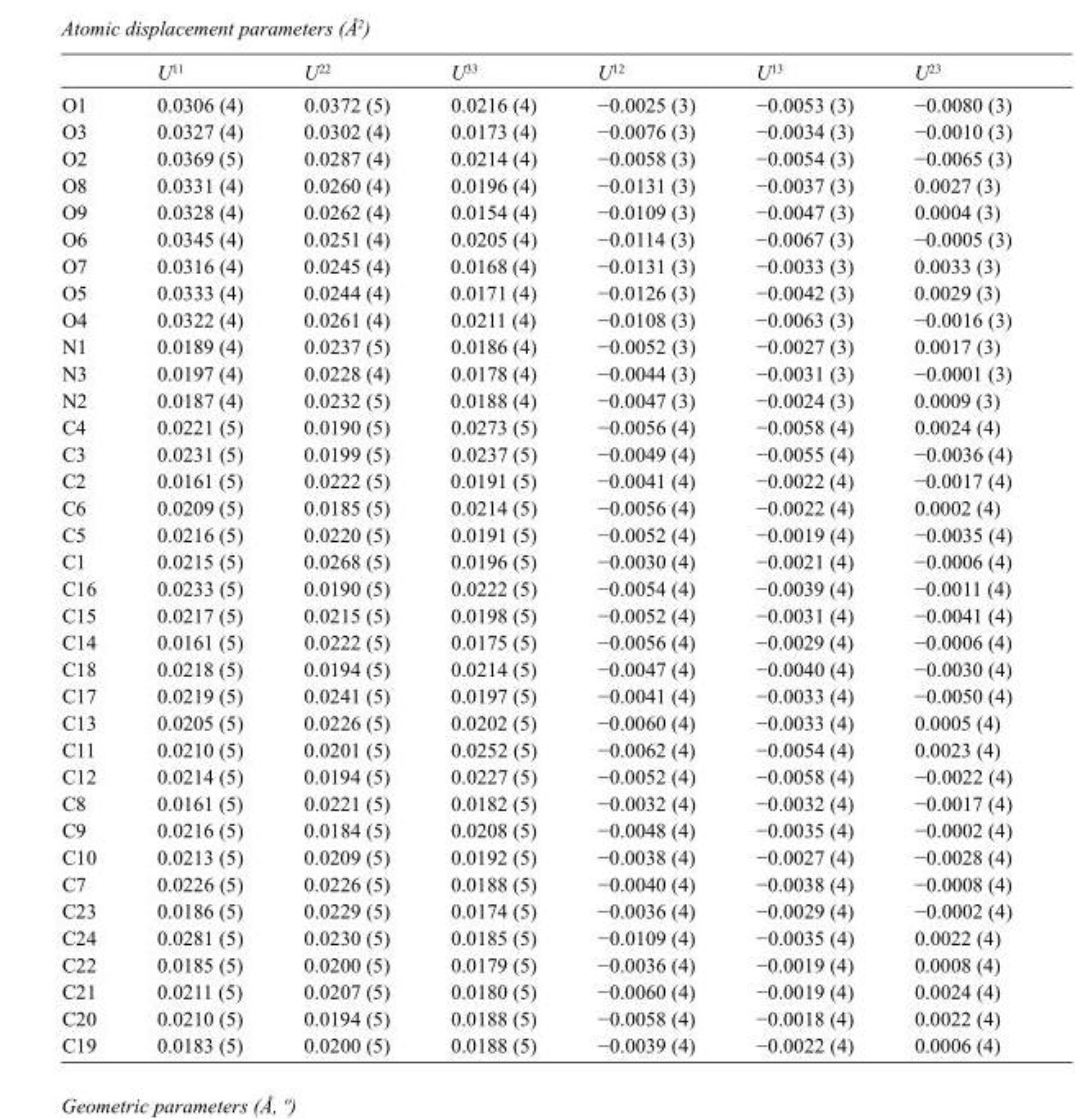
<table><thead><tr><td></td><td>U<sup>11</sup></td><td>U<sup>22</sup></td><td>U<sup>33</sup></td><td>U<sup>12</sup></td><td>U<sup>13</sup></td><td>U<sup>23</sup></td></tr></thead><tbody><tr><td>O1</td><td>0.0306 (4)</td><td>0.0372 (5)</td><td>0.0216 (4)</td><td>−0.0025 (3)</td><td>−0.0053 (3)</td><td>−0.0080 (3)</td></tr><tr><td>O3</td><td>0.0327 (4)</td><td>0.0302 (4)</td><td>0.0173 (4)</td><td>−0.0076 (3)</td><td>−0.0034 (3)</td><td>−0.0010 (3)</td></tr><tr><td>O2</td><td>0.0369 (5)</td><td>0.0287 (4)</td><td>0.0214 (4)</td><td>−0.0058 (3)</td><td>−0.0054 (3)</td><td>−0.0065 (3)</td></tr><tr><td>O8</td><td>0.0331 (4)</td><td>0.0260 (4)</td><td>0.0196 (4)</td><td>−0.0131 (3)</td><td>−0.0037 (3)</td><td>0.0027 (3)</td></tr><tr><td>O9</td><td>0.0328 (4)</td><td>0.0262 (4)</td><td>0.0154 (4)</td><td>−0.0109 (3)</td><td>−0.0047 (3)</td><td>0.0004 (3)</td></tr><tr><td>O6</td><td>0.0345 (4)</td><td>0.0251 (4)</td><td>0.0205 (4)</td><td>−0.0114 (3)</td><td>−0.0067 (3)</td><td>−0.0005 (3)</td></tr><tr><td>O7</td><td>0.0316 (4)</td><td>0.0245 (4)</td><td>0.0168 (4)</td><td>−0.0131 (3)</td><td>−0.0033 (3)</td><td>0.0033 (3)</td></tr><tr><td>O5</td><td>0.0333 (4)</td><td>0.0244 (4)</td><td>0.0171 (4)</td><td>−0.0126 (3)</td><td>−0.0042 (3)</td><td>0.0029 (3)</td></tr><tr><td>O4</td><td>0.0322 (4)</td><td>0.0261 (4)</td><td>0.0211 (4)</td><td>−0.0108 (3)</td><td>−0.0063 (3)</td><td>−0.0016 (3)</td></tr><tr><td>N1</td><td>0.0189 (4)</td><td>0.0237 (5)</td><td>0.0186 (4)</td><td>−0.0052 (3)</td><td>−0.0027 (3)</td><td>0.0017 (3)</td></tr><tr><td>N3</td><td>0.0197 (4)</td><td>0.0228 (4)</td><td>0.0178 (4)</td><td>−0.0044 (3)</td><td>−0.0031 (3)</td><td>−0.0001 (3)</td></tr><tr><td>N2</td><td>0.0187 (4)</td><td>0.0232 (5)</td><td>0.0188 (4)</td><td>−0.0047 (3)</td><td>−0.0024 (3)</td><td>0.0009 (3)</td></tr><tr><td>C4</td><td>0.0221 (5)</td><td>0.0190 (5)</td><td>0.0273 (5)</td><td>−0.0056 (4)</td><td>−0.0058 (4)</td><td>0.0024 (4)</td></tr><tr><td>C3</td><td>0.0231 (5)</td><td>0.0199 (5)</td><td>0.0237 (5)</td><td>−0.0049 (4)</td><td>−0.0055 (4)</td><td>−0.0036 (4)</td></tr><tr><td>C2</td><td>0.0161 (5)</td><td>0.0222 (5)</td><td>0.0191 (5)</td><td>−0.0041 (4)</td><td>−0.0022 (4)</td><td>−0.0017 (4)</td></tr><tr><td>C6</td><td>0.0209 (5)</td><td>0.0185 (5)</td><td>0.0214 (5)</td><td>−0.0056 (4)</td><td>−0.0022 (4)</td><td>0.0002 (4)</td></tr><tr><td>C5</td><td>0.0216 (5)</td><td>0.0220 (5)</td><td>0.0191 (5)</td><td>−0.0052 (4)</td><td>−0.0019 (4)</td><td>−0.0035 (4)</td></tr><tr><td>C1</td><td>0.0215 (5)</td><td>0.0268 (5)</td><td>0.0196 (5)</td><td>−0.0030 (4)</td><td>−0.0021 (4)</td><td>−0.0006 (4)</td></tr><tr><td>C16</td><td>0.0233 (5)</td><td>0.0190 (5)</td><td>0.0222 (5)</td><td>−0.0054 (4)</td><td>−0.0039 (4)</td><td>−0.0011 (4)</td></tr><tr><td>C15</td><td>0.0217 (5)</td><td>0.0215 (5)</td><td>0.0198 (5)</td><td>−0.0052 (4)</td><td>−0.0031 (4)</td><td>−0.0041 (4)</td></tr><tr><td>C14</td><td>0.0161 (5)</td><td>0.0222 (5)</td><td>0.0175 (5)</td><td>−0.0056 (4)</td><td>−0.0029 (4)</td><td>−0.0006 (4)</td></tr><tr><td>C18</td><td>0.0218 (5)</td><td>0.0194 (5)</td><td>0.0214 (5)</td><td>−0.0047 (4)</td><td>−0.0040 (4)</td><td>−0.0030 (4)</td></tr><tr><td>C17</td><td>0.0219 (5)</td><td>0.0241 (5)</td><td>0.0197 (5)</td><td>−0.0041 (4)</td><td>−0.0033 (4)</td><td>−0.0050 (4)</td></tr><tr><td>C13</td><td>0.0205 (5)</td><td>0.0226 (5)</td><td>0.0202 (5)</td><td>−0.0060 (4)</td><td>−0.0033 (4)</td><td>0.0005 (4)</td></tr><tr><td>C11</td><td>0.0210 (5)</td><td>0.0201 (5)</td><td>0.0252 (5)</td><td>−0.0062 (4)</td><td>−0.0054 (4)</td><td>0.0023 (4)</td></tr><tr><td>C12</td><td>0.0214 (5)</td><td>0.0194 (5)</td><td>0.0227 (5)</td><td>−0.0052 (4)</td><td>−0.0058 (4)</td><td>−0.0022 (4)</td></tr><tr><td>C8</td><td>0.0161 (5)</td><td>0.0221 (5)</td><td>0.0182 (5)</td><td>−0.0032 (4)</td><td>−0.0032 (4)</td><td>−0.0017 (4)</td></tr><tr><td>C9</td><td>0.0216 (5)</td><td>0.0184 (5)</td><td>0.0208 (5)</td><td>−0.0048 (4)</td><td>−0.0035 (4)</td><td>−0.0002 (4)</td></tr><tr><td>C10</td><td>0.0213 (5)</td><td>0.0209 (5)</td><td>0.0192 (5)</td><td>−0.0038 (4)</td><td>−0.0027 (4)</td><td>−0.0028 (4)</td></tr><tr><td>C7</td><td>0.0226 (5)</td><td>0.0226 (5)</td><td>0.0188 (5)</td><td>−0.0040 (4)</td><td>−0.0038 (4)</td><td>−0.0008 (4)</td></tr><tr><td>C23</td><td>0.0186 (5)</td><td>0.0229 (5)</td><td>0.0174 (5)</td><td>−0.0036 (4)</td><td>−0.0029 (4)</td><td>−0.0002 (4)</td></tr><tr><td>C24</td><td>0.0281 (5)</td><td>0.0230 (5)</td><td>0.0185 (5)</td><td>−0.0109 (4)</td><td>−0.0035 (4)</td><td>0.0022 (4)</td></tr><tr><td>C22</td><td>0.0185 (5)</td><td>0.0200 (5)</td><td>0.0179 (5)</td><td>−0.0036 (4)</td><td>−0.0019 (4)</td><td>0.0008 (4)</td></tr><tr><td>C21</td><td>0.0211 (5)</td><td>0.0207 (5)</td><td>0.0180 (5)</td><td>−0.0060 (4)</td><td>−0.0019 (4)</td><td>0.0024 (4)</td></tr><tr><td>C20</td><td>0.0210 (5)</td><td>0.0194 (5)</td><td>0.0188 (5)</td><td>−0.0058 (4)</td><td>−0.0018 (4)</td><td>0.0022 (4)</td></tr><tr><td>C19</td><td>0.0183 (5)</td><td>0.0200 (5)</td><td>0.0188 (5)</td><td>−0.0039 (4)</td><td>−0.0022 (4)</td><td>0.0006 (4)</td></tr></tbody></table>